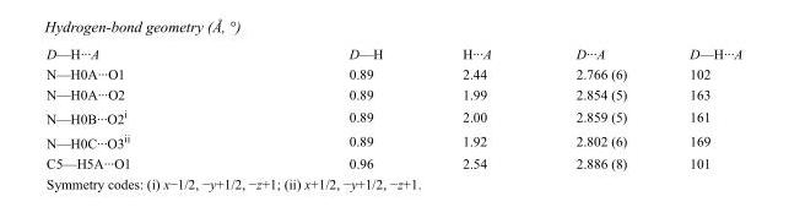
<table><tbody><tr><td>D—H···A</td><td>D—H</td><td>H···A</td><td>D···A</td><td>D—H···A</td></tr><tr><td>N—H0A···O1</td><td>0.89</td><td>2.44</td><td>2.766 (6)</td><td>102</td></tr><tr><td>N—H0A···O2</td><td>0.89</td><td>1.99</td><td>2.854 (5)</td><td>163</td></tr><tr><td>N—H0B···O2<sup>i</sup></td><td>0.89</td><td>2.00</td><td>2.859 (5)</td><td>161</td></tr><tr><td>N—H0C···O3<sup>ii</sup></td><td>0.89</td><td>1.92</td><td>2.802 (6)</td><td>169</td></tr><tr><td>C5—H5A···O1</td><td>0.96</td><td>2.54</td><td>2.886 (8)</td><td>101</td></tr></tbody></table>